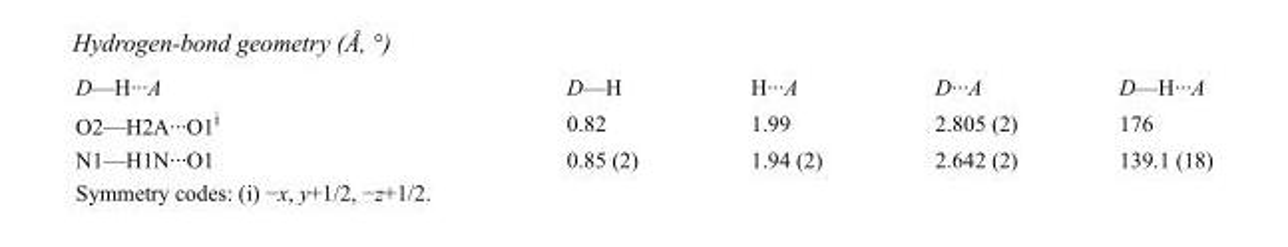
<table><tbody><tr><td>D—H···A</td><td>D—H</td><td>H···A</td><td>D···A</td><td>D—H···A</td></tr><tr><td>O2—H2A···O1<sup>i</sup></td><td>0.82</td><td>1.99</td><td>2.805 (2)</td><td>176</td></tr><tr><td>N1—H1N···O1</td><td>0.85 (2)</td><td>1.94 (2)</td><td>2.642 (2)</td><td>139.1 (18)</td></tr></tbody></table>